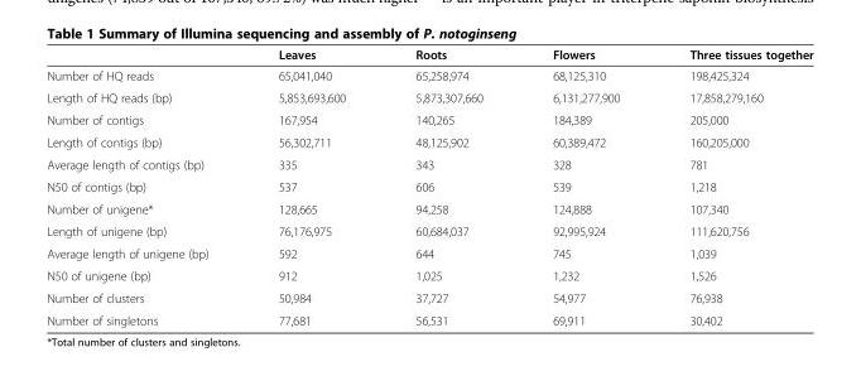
<table><thead><tr><td></td><td>Leaves</td><td>Roots</td><td>Flowers</td><td>Three tissues together</td></tr></thead><tbody><tr><td>Number of HQ reads</td><td>65,041,040</td><td>65,258,974</td><td>68,125,310</td><td>198,425,324</td></tr><tr><td>Length of HQ reads (bp)</td><td>5,853,693,600</td><td>5,873,307,660</td><td>6,131,277,900</td><td>17,858,279,160</td></tr><tr><td>Number of contigs</td><td>167,954</td><td>140,265</td><td>184,389</td><td>205,000</td></tr><tr><td>Length of contigs (bp)</td><td>56,302,711</td><td>48,125,902</td><td>60,389,472</td><td>160,205,000</td></tr><tr><td>Average length of contigs (bp)</td><td>335</td><td>343</td><td>328</td><td>781</td></tr><tr><td>N50 of contigs (bp)</td><td>537</td><td>606</td><td>539</td><td>1,218</td></tr><tr><td>Number of unigene*</td><td>128,665</td><td>94,258</td><td>124,888</td><td>107,340</td></tr><tr><td>Length of unigene (bp)</td><td>76,176,975</td><td>60,684,037</td><td>92,995,924</td><td>111,620,756</td></tr><tr><td>Average length of unigene (bp)</td><td>592</td><td>644</td><td>745</td><td>1,039</td></tr><tr><td>N50 of unigene (bp)</td><td>912</td><td>1,025</td><td>1,232</td><td>1,526</td></tr><tr><td>Number of clusters</td><td>50,984</td><td>37,727</td><td>54,977</td><td>76,938</td></tr><tr><td>Number of singletons</td><td>77,681</td><td>56,531</td><td>69,911</td><td>30,402</td></tr></tbody></table>